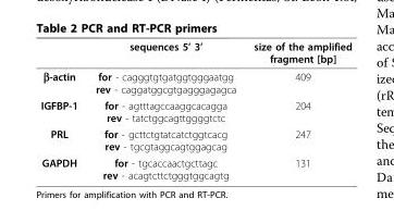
<table><thead><tr><td></td><td>sequences 5’ 3’</td><td>size of the amplified fragment [bp]</td></tr></thead><tbody><tr><td>β-actin</td><td>for - cagggtgtgatggtgggaatgg rev - caggatggcgtgagggagagca</td><td>409</td></tr><tr><td>IGFBP-1</td><td>for - agtttagccaaggcacagga rev - tatctggcagttggggtctc</td><td>204</td></tr><tr><td>PRL</td><td>for - gcttctgtatcatctggtcacg rev - tgcgtaggcagtggagcag</td><td>247</td></tr><tr><td>GAPDH</td><td>for - tgcaccaactgcttagc rev - acagtcttctgggtggcagtg</td><td>131</td></tr></tbody></table>